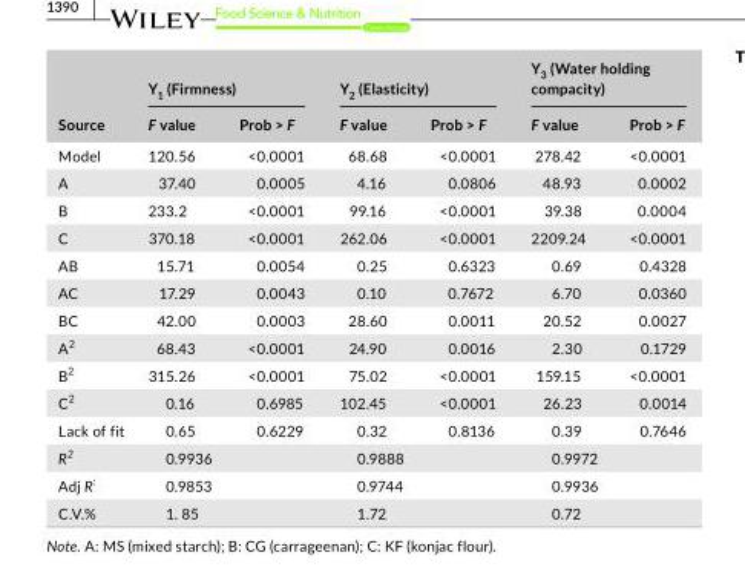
<table><thead><tr><td rowspan="2">Source</td><td colspan="2">Y<sub>1</sub> (Firmness)</td><td colspan="2">Y<sub>2</sub> (Elasticity)</td><td colspan="2">Y<sub>3</sub> (Water holding compacity)</td></tr><tr><td>F value</td><td>Prob &gt; F</td><td>F value</td><td>Prob &gt; F</td><td>F value</td><td>Prob &gt; F</td></tr></thead><tbody><tr><td>Model</td><td>120.56</td><td>&lt;0.0001</td><td>68.68</td><td>&lt;0.0001</td><td>278.42</td><td>&lt;0.0001</td></tr><tr><td>A</td><td>37.40</td><td>0.0005</td><td>4.16</td><td>0.0806</td><td>48.93</td><td>0.0002</td></tr><tr><td>B</td><td>233.2</td><td>&lt;0.0001</td><td>99.16</td><td>&lt;0.0001</td><td>39.38</td><td>0.0004</td></tr><tr><td>C</td><td>370.18</td><td>&lt;0.0001</td><td>262.06</td><td>&lt;0.0001</td><td>2209.24</td><td>&lt;0.0001</td></tr><tr><td>AB</td><td>15.71</td><td>0.0054</td><td>0.25</td><td>0.6323</td><td>0.69</td><td>0.4328</td></tr><tr><td>AC</td><td>17.29</td><td>0.0043</td><td>0.10</td><td>0.7672</td><td>6.70</td><td>0.0360</td></tr><tr><td>BC</td><td>42.00</td><td>0.0003</td><td>28.60</td><td>0.0011</td><td>20.52</td><td>0.0027</td></tr><tr><td>A<sup>2</sup></td><td>68.43</td><td>&lt;0.0001</td><td>24.90</td><td>0.0016</td><td>2.30</td><td>0.1729</td></tr><tr><td>B<sup>2</sup></td><td>315.26</td><td>&lt;0.0001</td><td>75.02</td><td>&lt;0.0001</td><td>159.15</td><td>&lt;0.0001</td></tr><tr><td>C<sup>2</sup></td><td>0.16</td><td>0.6985</td><td>102.45</td><td>&lt;0.0001</td><td>26.23</td><td>0.0014</td></tr><tr><td>Lack of fit</td><td>0.65</td><td>0.6229</td><td>0.32</td><td>0.8136</td><td>0.39</td><td>0.7646</td></tr><tr><td>R<sup>2</sup></td><td colspan="2">0.9936</td><td colspan="2">0.9888</td><td colspan="2">0.9972</td></tr><tr><td>Adj R<sup>:</sup></td><td colspan="2">0.9853</td><td colspan="2">0.9744</td><td colspan="2">0.9936</td></tr><tr><td>C.V.%</td><td colspan="2">1. 85</td><td colspan="2">1.72</td><td colspan="2">0.72</td></tr></tbody></table>